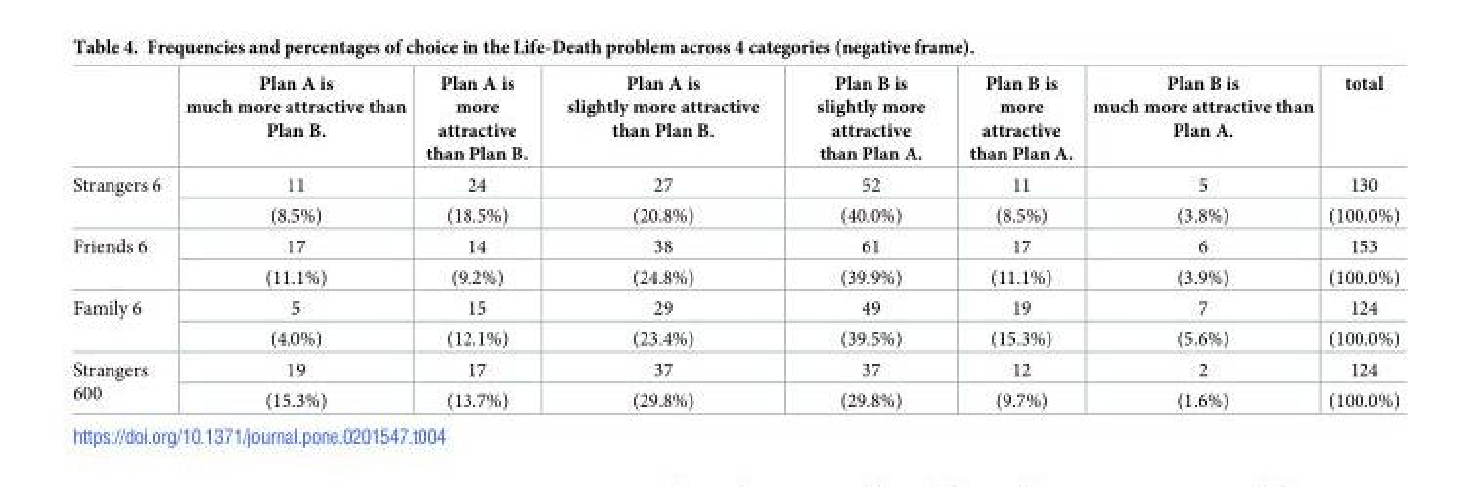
<table><thead><tr><td></td><td>Plan A is much more attractive than Plan B.</td><td>Plan A is more attractive than Plan B.</td><td>Plan A is slightly more attractive than Plan B.</td><td>Plan B is slightly more attractive than Plan A.</td><td>Plan B is more attractive than Plan A.</td><td>Plan B is much more attractive than Plan A.</td><td>total</td></tr></thead><tbody><tr><td rowspan="2">Strangers 6</td><td>11</td><td>24</td><td>27</td><td>52</td><td>11</td><td>5</td><td>130</td></tr><tr><td>(8.5%)</td><td>(18.5%)</td><td>(20.8%)</td><td>(40.0%)</td><td>(8.5%)</td><td>(3.8%)</td><td>(100.0%)</td></tr><tr><td rowspan="2">Friends 6</td><td>17</td><td>14</td><td>38</td><td>61</td><td>17</td><td>6</td><td>153</td></tr><tr><td>(11.1%)</td><td>(9.2%)</td><td>(24.8%)</td><td>(39.9%)</td><td>(11.1%)</td><td>(3.9%)</td><td>(100.0%)</td></tr><tr><td rowspan="2">Family 6</td><td>5</td><td>15</td><td>29</td><td>49</td><td>19</td><td>7</td><td>124</td></tr><tr><td>(4.0%)</td><td>(12.1%)</td><td>(23.4%)</td><td>(39.5%)</td><td>(15.3%)</td><td>(5.6%)</td><td>(100.0%)</td></tr><tr><td rowspan="2">Strangers 600</td><td>19</td><td>17</td><td>37</td><td>37</td><td>12</td><td>2</td><td>124</td></tr><tr><td>(15.3%)</td><td>(13.7%)</td><td>(29.8%)</td><td>(29.8%)</td><td>(9.7%)</td><td>(1.6%)</td><td>(100.0%)</td></tr></tbody></table>